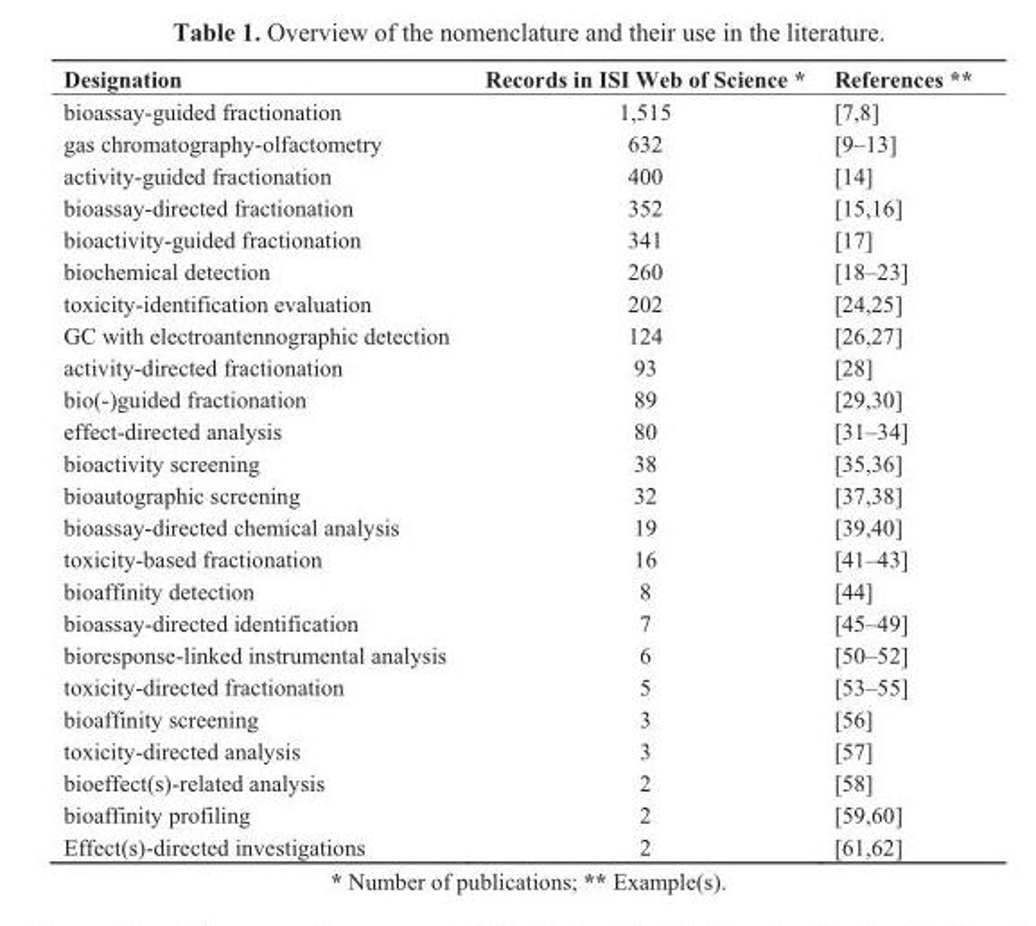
<table><thead><tr><td>Designation</td><td>Records in ISI Web of Science *</td><td>References **</td></tr></thead><tbody><tr><td>bioassay-guided fractionation</td><td>1,515</td><td>[7,8]</td></tr><tr><td>gas chromatography-olfactometry</td><td>632</td><td>[9–13]</td></tr><tr><td>activity-guided fractionation</td><td>400</td><td>[14]</td></tr><tr><td>bioassay-directed fractionation</td><td>352</td><td>[15,16]</td></tr><tr><td>bioactivity-guided fractionation</td><td>341</td><td>[17]</td></tr><tr><td>biochemical detection</td><td>260</td><td>[18–23]</td></tr><tr><td>toxicity-identification evaluation</td><td>202</td><td>[24,25]</td></tr><tr><td>GC with electroantennographic detection</td><td>124</td><td>[26,27]</td></tr><tr><td>activity-directed fractionation</td><td>93</td><td>[28]</td></tr><tr><td>bio(-)guided fractionation</td><td>89</td><td>[29,30]</td></tr><tr><td>effect-directed analysis</td><td>80</td><td>[31–34]</td></tr><tr><td>bioactivity screening</td><td>38</td><td>[35,36]</td></tr><tr><td>bioautographic screening</td><td>32</td><td>[37,38]</td></tr><tr><td>bioassay-directed chemical analysis</td><td>19</td><td>[39,40]</td></tr><tr><td>toxicity-based fractionation</td><td>16</td><td>[41–43]</td></tr><tr><td>bioaffinity detection</td><td>8</td><td>[44]</td></tr><tr><td>bioassay-directed identification</td><td>7</td><td>[45–49]</td></tr><tr><td>bioresponse-linked instrumental analysis</td><td>6</td><td>[50–52]</td></tr><tr><td>toxicity-directed fractionation</td><td>5</td><td>[53–55]</td></tr><tr><td>bioaffinity screening</td><td>3</td><td>[56]</td></tr><tr><td>toxicity-directed analysis</td><td>3</td><td>[57]</td></tr><tr><td>bioeffect(s)-related analysis</td><td>2</td><td>[58]</td></tr><tr><td>bioaffinity profiling</td><td>2</td><td>[59,60]</td></tr><tr><td>Effect(s)-directed investigations</td><td>2</td><td>[61,62]</td></tr></tbody></table>